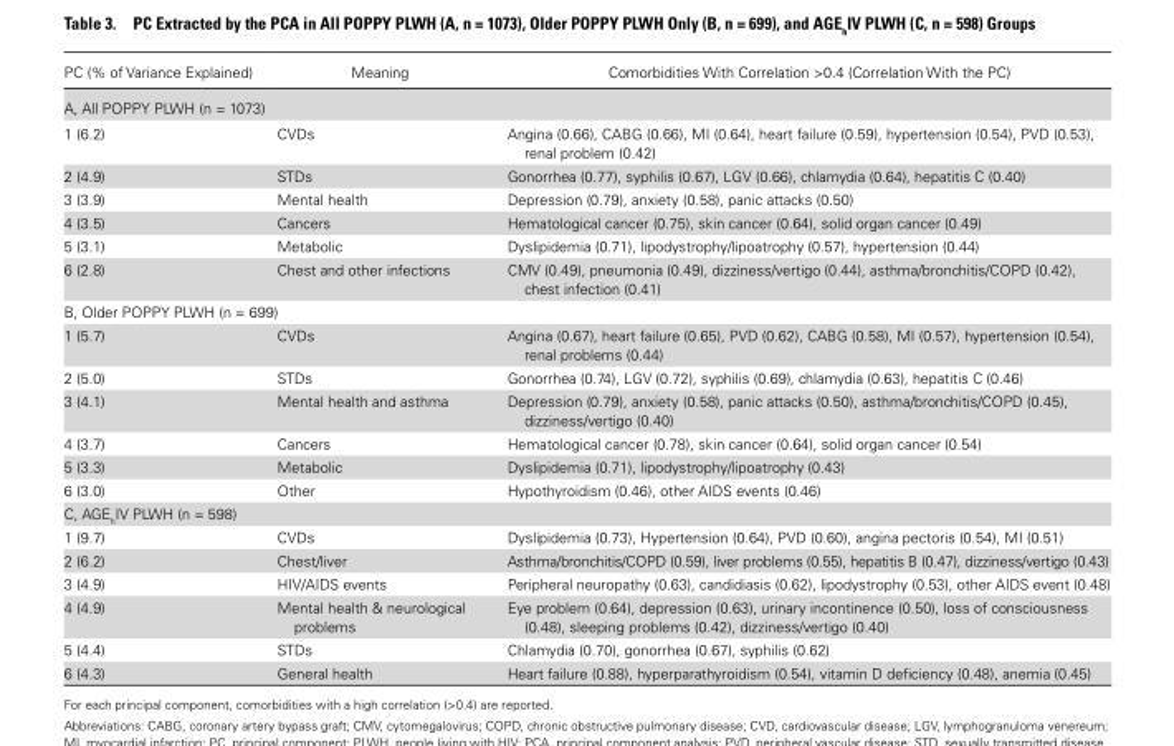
<table><thead><tr><td>PC (% of Variance Explained)</td><td>Meaning</td><td>Comorbidities With Correlation &gt;0.4 (Correlation With the PC)</td></tr><tr><td colspan="3">A, All POPPY PLWH (n = 1073)</td></tr></thead><tbody><tr><td>1 (6.2)</td><td>CVDs</td><td>Angina (0.66), CABG (0.66), MI (0.64), heart failure (0.59), hypertension (0.54), PVD (0.53), renal problem (0.42)</td></tr><tr><td>2 (4.9)</td><td>STDs</td><td>Gonorrhea (0.77), syphilis (0.67), LGV (0.66), chlamydia (0.64), hepatitis C (0.40)</td></tr><tr><td>3 (3.9)</td><td>Mental health</td><td>Depression (0.79), anxiety (0.58), panic attacks (0.50)</td></tr><tr><td>4 (3.5)</td><td>Cancers</td><td>Hematological cancer (0.75), skin cancer (0.64), solid organ cancer (0.49)</td></tr><tr><td>5 (3.1)</td><td>Metabolic</td><td>Dyslipidemia (0.71), lipodystrophy/lipoatrophy (0.57), hypertension (0.44)</td></tr><tr><td>6 (2.8)</td><td>Chest and other infections</td><td>CMV (0.49), pneumonia (0.49), dizziness/vertigo (0.44), asthma/bronchitis/COPD (0.42), chest infection (0.41)</td></tr><tr><td colspan="3">B, Older POPPY PLWH (n = 699)</td></tr><tr><td>1 (5.7)</td><td>CVDs</td><td>Angina (0.67), heart failure (0.65), PVD (0.62), CABG (0.58), MI (0.57), hypertension (0.54), renal problems (0.44)</td></tr><tr><td>2 (5.0)</td><td>STDs</td><td>Gonorrhea (0.74), LGV (0.72), syphilis (0.69), chlamydia (0.63), hepatitis C (0.46)</td></tr><tr><td>3 (4.1)</td><td>Mental health and asthma</td><td>Depression (0.79), anxiety (0.58), panic attacks (0.50), asthma/bronchitis/COPD (0.45), dizziness/vertigo (0.40)</td></tr><tr><td>4 (3.7)</td><td>Cancers</td><td>Hematological cancer (0.78), skin cancer (0.64), solid organ cancer (0.54)</td></tr><tr><td>5 (3.3)</td><td>Metabolic</td><td>Dyslipidemia (0.71), lipodystrophy/lipoatrophy (0.43)</td></tr><tr><td>6 (3.0)</td><td>Other</td><td>Hypothyroidism (0.46), other AIDS events (0.46)</td></tr><tr><td colspan="3">C, AGE<sub>h</sub>IV PLWH (n = 598)</td></tr><tr><td>1 (9.7)</td><td>CVDs</td><td>Dyslipidemia (0.73), Hypertension (0.64), PVD (0.60), angina pectoris (0.54), MI (0.51)</td></tr><tr><td>2 (6.2)</td><td>Chest/liver</td><td>Asthma/bronchitis/COPD (0.59), liver problems (0.55), hepatitis B (0.47), dizziness/vertigo (0.43)</td></tr><tr><td>3 (4.9)</td><td>HIV/AIDS events</td><td>Peripheral neuropathy (0.63), candidiasis (0.62), lipodystrophy (0.53), other AIDS event (0.48)</td></tr><tr><td>4 (4.9)</td><td>Mental health &amp; neurological problems</td><td>Eye problem (0.64), depression (0.63), urinary incontinence (0.50), loss of consciousness (0.48), sleeping problems (0.42), dizziness/vertigo (0.40)</td></tr><tr><td>5 (4.4)</td><td>STDs</td><td>Chlamydia (0.70), gonorrhea (0.67), syphilis (0.62)</td></tr><tr><td>6 (4.3)</td><td>General health</td><td>Heart failure (0.88), hyperparathyroidism (0.54), vitamin D deficiency (0.48), anemia (0.45)</td></tr></tbody></table>